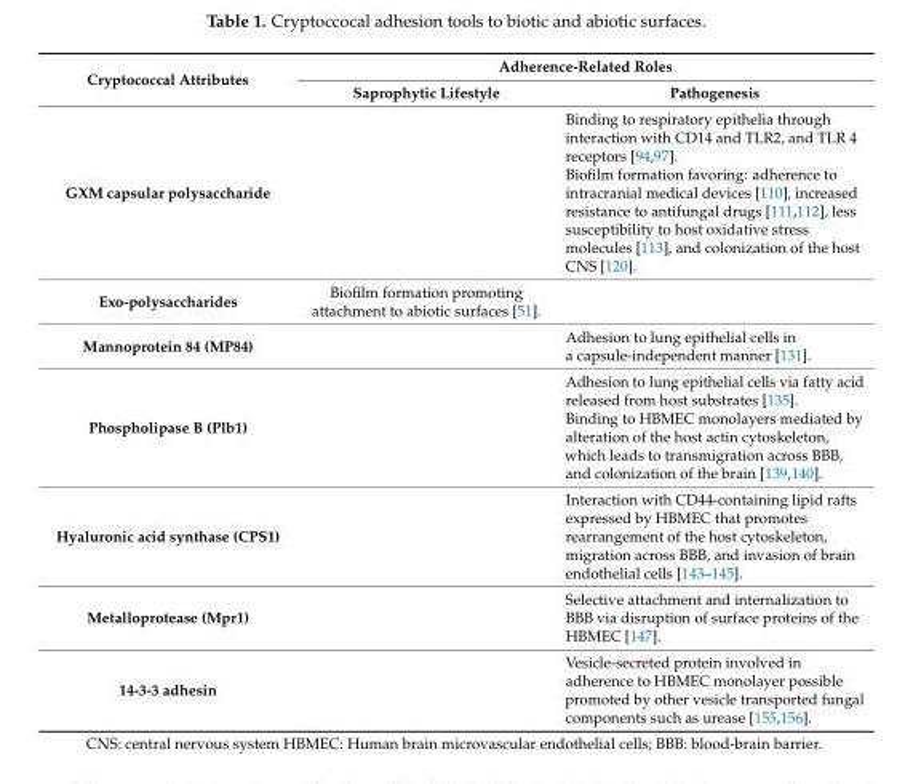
<table><thead><tr><td rowspan="2">Cryptococcal Attributes</td><td colspan="2">Adherence-Related Roles</td></tr><tr><td>Saprophytic Lifestyle</td><td>Pathogenesis</td></tr></thead><tbody><tr><td>GXM capsular polysaccharide</td><td></td><td>Binding to respiratory epithelia through interaction with CD14 and TLR2, and TLR 4 receptors [94,97]. Biofilm formation favoring: adherence to intracranial medical devices [110], increased resistance to antifungal drugs [111,112], less susceptibility to host oxidative stress molecules [113], and colonization of the host CNS [120].</td></tr><tr><td>Exo-polysaccharides</td><td>Biofilm formation promoting attachment to abiotic surfaces [51].</td><td></td></tr><tr><td>Mannoprotein 84 (MP84)</td><td></td><td>Adhesion to lung epithelial cells in a capsule-independent manner [131].</td></tr><tr><td>Phospholipase B (Plb1)</td><td></td><td>Adhesion to lung epithelial cells via fatty acid released from host substrates [135]. Binding to HBMEC monolayers mediated by alteration of the host actin cytoskeleton, which leads to transmigration across BBB, and colonization of the brain [139,140].</td></tr><tr><td>Hyaluronic acid synthase (CPS1)</td><td></td><td>Interaction with CD44-containing lipid rafts expressed by HBMEC that promotes rearrangement of the host cytoskeleton, migration across BBB, and invasion of brain endothelial cells [143–145].</td></tr><tr><td>Metalloprotease (Mpr1)</td><td></td><td>Selective attachment and internalization to BBB via disruption of surface proteins of the HBMEC [147].</td></tr><tr><td>14-3-3 adhesin</td><td></td><td>Vesicle-secreted protein involved in adherence to HBMEC monolayer possible promoted by other vesicle transported fungal components such as urease [155,156].</td></tr></tbody></table>